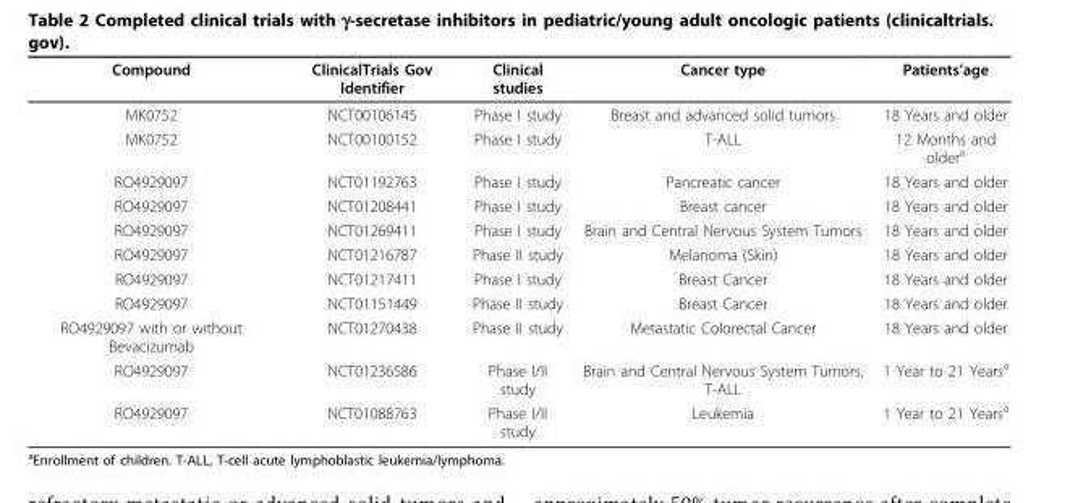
<table><thead><tr><td>Compound</td><td>ClinicalTrials Gov Identifier</td><td>Clinical studies</td><td>Cancer type</td><td>Patients’age</td></tr></thead><tbody><tr><td>MK0752</td><td>NCT00106145</td><td>Phase I study</td><td>Breast and advanced solid tumors</td><td>18 Years and older</td></tr><tr><td>MK0752</td><td>NCT00100152</td><td>Phase I study</td><td>T-ALL</td><td>12 Months and older<sup>a</sup></td></tr><tr><td>RO4929097</td><td>NCT01192763</td><td>Phase I study</td><td>Pancreatic cancer</td><td>18 Years and older</td></tr><tr><td>RO4929097</td><td>NCT01208441</td><td>Phase I study</td><td>Breast cancer</td><td>18 Years and older</td></tr><tr><td>RO4929097</td><td>NCT01269411</td><td>Phase I study</td><td>Brain and Central Nervous System Tumors</td><td>18 Years and older</td></tr><tr><td>RO4929097</td><td>NCT01216787</td><td>Phase II study</td><td>Melanoma (Skin)</td><td>18 Years and older</td></tr><tr><td>RO4929097</td><td>NCT01217411</td><td>Phase I study</td><td>Breast Cancer</td><td>18 Years and older</td></tr><tr><td>RO4929097</td><td>NCT01151449</td><td>Phase II study</td><td>Breast Cancer</td><td>18 Years and older</td></tr><tr><td>RO4929097 with or without Bevacizumab</td><td>NCT01270438</td><td>Phase II study</td><td>Metastatic Colorectal Cancer</td><td>18 Years and older</td></tr><tr><td>RO4929097</td><td>NCT01236586</td><td>Phase I/II study</td><td>Brain and Central Nervous System Tumors, T-ALL</td><td>1 Year to 21 Years<sup>a</sup></td></tr><tr><td>RO4929097</td><td>NCT01088763</td><td>Phase I/II study</td><td>Leukemia</td><td>1 Year to 21 Years<sup>a</sup></td></tr></tbody></table>